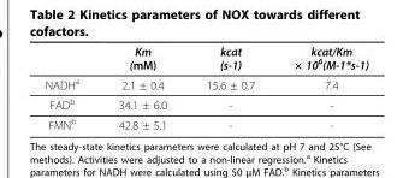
<table><thead><tr><td></td><td>Km (mM)</td><td>kcat (s-1)</td><td>kcat/Km × 10<sup>6</sup>(M-1*s-1)</td></tr></thead><tbody><tr><td>NADH<sup>a</sup></td><td>2.1 ± 0.4</td><td>15.6 ± 0.7</td><td>7.4</td></tr><tr><td>FAD<sup>b</sup></td><td>34.1 ± 6.0</td><td>-</td><td>-</td></tr><tr><td>FMN<sup>b</sup></td><td>42.8 ± 5.1</td><td>-</td><td>-</td></tr></tbody></table>